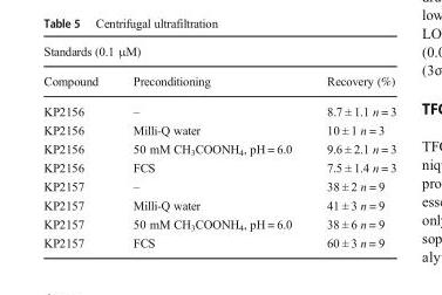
<table><thead><tr><td colspan="3">Standards (0.1 μM)</td></tr><tr><td>Compound</td><td>Preconditioning</td><td>Recovery (%)</td></tr></thead><tbody><tr><td>KP2156</td><td>–</td><td>8.7 ± 1.1 n = 3</td></tr><tr><td>KP2156</td><td>Milli-Q water</td><td>10 ± 1 n = 3</td></tr><tr><td>KP2156</td><td>50 mM CH<sub>3</sub>COONH<sub>4</sub>, pH = 6.0</td><td>9.6 ± 2.1 n = 3</td></tr><tr><td>KP2156</td><td>FCS</td><td>7.5 ± 1.4 n = 3</td></tr><tr><td>KP2157</td><td>–</td><td>38 ± 2 n = 9</td></tr><tr><td>KP2157</td><td>Milli-Q water</td><td>41 ± 3 n = 9</td></tr><tr><td>KP2157</td><td>50 mM CH<sub>3</sub>COONH<sub>4</sub>, pH = 6.0</td><td>38 ± 6 n = 9</td></tr><tr><td>KP2157</td><td>FCS</td><td>60 ± 3 n = 9</td></tr></tbody></table>